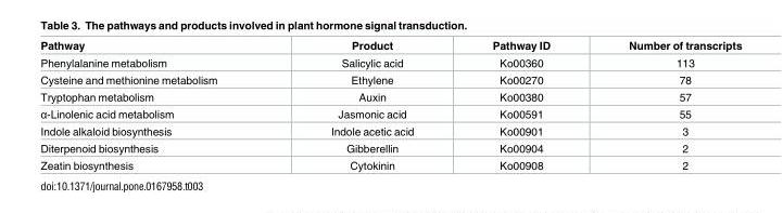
<table><thead><tr><td>Pathway</td><td>Product</td><td>Pathway ID</td><td>Number of transcripts</td></tr></thead><tbody><tr><td>Phenylalanine metabolism</td><td>Salicylic acid</td><td>Ko00360</td><td>113</td></tr><tr><td>Cysteine and methionine metabolism</td><td>Ethylene</td><td>Ko00270</td><td>78</td></tr><tr><td>Tryptophan metabolism</td><td>Auxin</td><td>Ko00380</td><td>57</td></tr><tr><td>α-Linolenic acid metabolism</td><td>Jasmonic acid</td><td>Ko00591</td><td>55</td></tr><tr><td>Indole alkaloid biosynthesis</td><td>Indole acetic acid</td><td>Ko00901</td><td>3</td></tr><tr><td>Diterpenoid biosynthesis</td><td>Gibberellin</td><td>Ko00904</td><td>2</td></tr><tr><td>Zeatin biosynthesis</td><td>Cytokinin</td><td>Ko00908</td><td>2</td></tr></tbody></table>